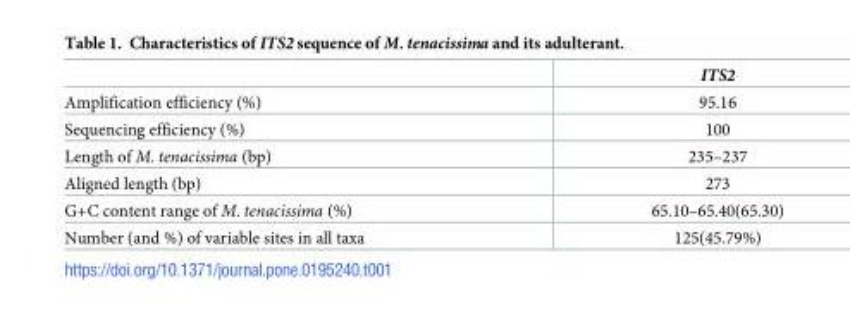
<table><thead><tr><td></td><td>ITS2</td></tr></thead><tbody><tr><td>Amplification efficiency (%)</td><td>95.16</td></tr><tr><td>Sequencing efficiency (%)</td><td>100</td></tr><tr><td>Length of M. tenacissima (bp)</td><td>235–237</td></tr><tr><td>Aligned length (bp)</td><td>273</td></tr><tr><td>G+C content range of M. tenacissima (%)</td><td>65.10–65.40(65.30)</td></tr><tr><td>Number (and %) of variable sites in all taxa</td><td>125(45.79%)</td></tr></tbody></table>